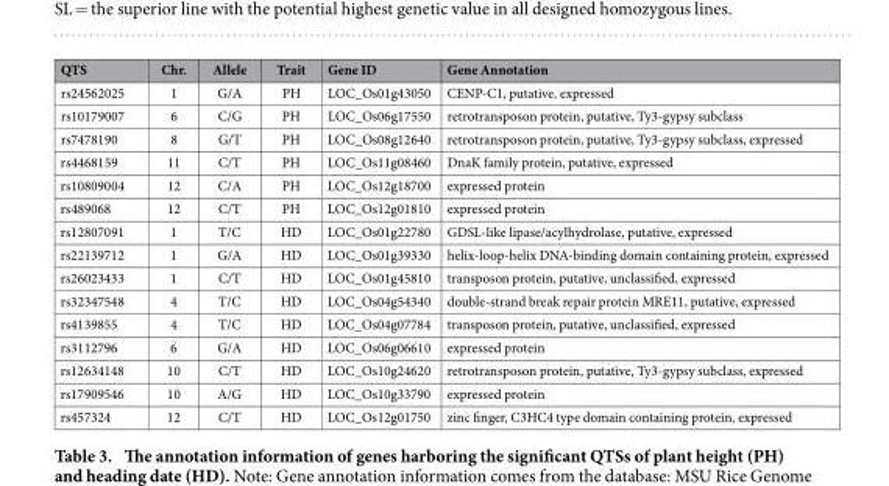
<table><thead><tr><td>QTS</td><td>Chr.</td><td>Allele</td><td>Trait</td><td>Gene ID</td><td>Gene Annotation</td></tr></thead><tbody><tr><td>rs24562025</td><td>1</td><td>G/A</td><td>PH</td><td>LOC_Os01g43050</td><td>CENP-C1, putative, expressed</td></tr><tr><td>rs10179007</td><td>6</td><td>C/G</td><td>PH</td><td>LOC_Os06g17550</td><td>retrotransposon protein, putative, Ty3-gypsy subclass</td></tr><tr><td>rs7478190</td><td>8</td><td>G/T</td><td>PH</td><td>LOC_Os08g12640</td><td>retrotransposon protein, putative, Ty3-gypsy subclass, expressed</td></tr><tr><td>rs4468159</td><td>11</td><td>C/T</td><td>PH</td><td>LOC_Os11g08460</td><td>DnaK family protein, putative, expressed</td></tr><tr><td>rs10809004</td><td>12</td><td>C/A</td><td>PH</td><td>LOC_Os12g18700</td><td>expressed protein</td></tr><tr><td>rs489068</td><td>12</td><td>C/T</td><td>PH</td><td>LOC_Os12g01810</td><td>expressed protein</td></tr><tr><td>rs12807091</td><td>1</td><td>T/C</td><td>HD</td><td>LOC_Os01g22780</td><td>GDSL-like lipase/acylhydrolase, putative, expressed</td></tr><tr><td>rs22139712</td><td>1</td><td>G/A</td><td>HD</td><td>LOC_Os01g39330</td><td>helix-loop-helix DNA-binding domain containing protein, expressed</td></tr><tr><td>rs26023433</td><td>1</td><td>C/T</td><td>HD</td><td>LOC_Os01g45810</td><td>transposon protein, putative, unclassified, expressed</td></tr><tr><td>rs32347548</td><td>4</td><td>T/C</td><td>HD</td><td>LOC_Os04g54340</td><td>double-strand break repair protein MRE11, putative, expressed</td></tr><tr><td>rs4139855</td><td>4</td><td>T/C</td><td>HD</td><td>LOC_Os04g07784</td><td>transposon protein, putative, unclassified, expressed</td></tr><tr><td>rs3112796</td><td>6</td><td>G/A</td><td>HD</td><td>LOC_Os06g06610</td><td>expressed protein</td></tr><tr><td>rs12634148</td><td>10</td><td>C/T</td><td>HD</td><td>LOC_Os10g24620</td><td>retrotransposon protein, putative, Ty3-gypsy subclass, expressed</td></tr><tr><td>rs17909546</td><td>10</td><td>A/G</td><td>HD</td><td>LOC_Os10g33790</td><td>expressed protein</td></tr><tr><td>rs457324</td><td>12</td><td>C/T</td><td>HD</td><td>LOC_Os12g01750</td><td>zinc finger, C3HC4 type domain containing protein, expressed</td></tr></tbody></table>